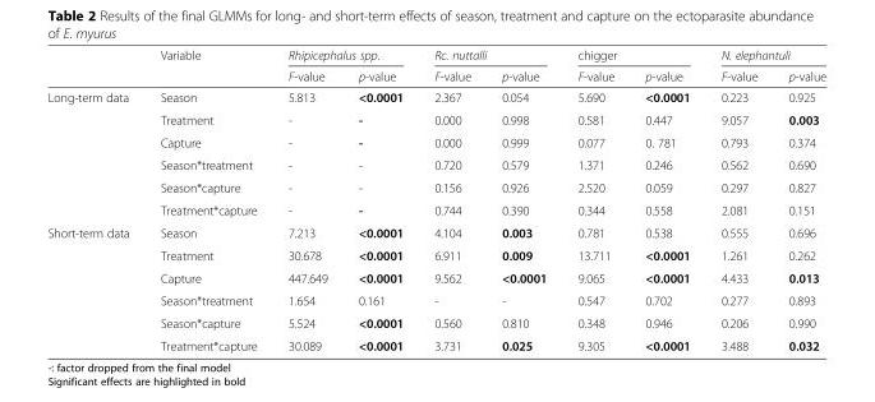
<table><thead><tr><td rowspan="2"></td><td rowspan="2">Variable</td><td colspan="2">Rhipicephalus spp.</td><td colspan="2">Rc. nuttalli</td><td colspan="2">chigger</td><td colspan="2">N. elephantuli</td></tr><tr><td>F-value</td><td>p-value</td><td>F-value</td><td>p-value</td><td>F-value</td><td>p-value</td><td>F-value</td><td>p-value</td></tr></thead><tbody><tr><td rowspan="6">Long-term data</td><td>Season</td><td>5.813</td><td>&lt;0.0001</td><td>2.367</td><td>0.054</td><td>5.690</td><td>&lt;0.0001</td><td>0.223</td><td>0.925</td></tr><tr><td>Treatment</td><td>-</td><td>-</td><td>0.000</td><td>0.998</td><td>0.581</td><td>0.447</td><td>9.057</td><td>0.003</td></tr><tr><td>Capture</td><td>-</td><td>-</td><td>0.000</td><td>0.999</td><td>0.077</td><td>0. 781</td><td>0.793</td><td>0.374</td></tr><tr><td>Season*treatment</td><td>-</td><td>-</td><td>0.720</td><td>0.579</td><td>1.371</td><td>0.246</td><td>0.562</td><td>0.690</td></tr><tr><td>Season*capture</td><td>-</td><td>-</td><td>0.156</td><td>0.926</td><td>2.520</td><td>0.059</td><td>0.297</td><td>0.827</td></tr><tr><td>Treatment*capture</td><td>-</td><td>-</td><td>0.744</td><td>0.390</td><td>0.344</td><td>0.558</td><td>2.081</td><td>0.151</td></tr><tr><td rowspan="6">Short-term data</td><td>Season</td><td>7.213</td><td>&lt;0.0001</td><td>4.104</td><td>0.003</td><td>0.781</td><td>0.538</td><td>0.555</td><td>0.696</td></tr><tr><td>Treatment</td><td>30.678</td><td>&lt;0.0001</td><td>6.911</td><td>0.009</td><td>13.711</td><td>&lt;0.0001</td><td>1.261</td><td>0.262</td></tr><tr><td>Capture</td><td>447.649</td><td>&lt;0.0001</td><td>9.562</td><td>&lt;0.0001</td><td>9.065</td><td>&lt;0.0001</td><td>4.433</td><td>0.013</td></tr><tr><td>Season*treatment</td><td>1.654</td><td>0.161</td><td>-</td><td>-</td><td>0.547</td><td>0.702</td><td>0.277</td><td>0.893</td></tr><tr><td>Season*capture</td><td>5.524</td><td>&lt;0.0001</td><td>0.560</td><td>0.810</td><td>0.348</td><td>0.946</td><td>0.206</td><td>0.990</td></tr><tr><td>Treatment*capture</td><td>30.089</td><td>&lt;0.0001</td><td>3.731</td><td>0.025</td><td>9.305</td><td>&lt;0.0001</td><td>3.488</td><td>0.032</td></tr></tbody></table>